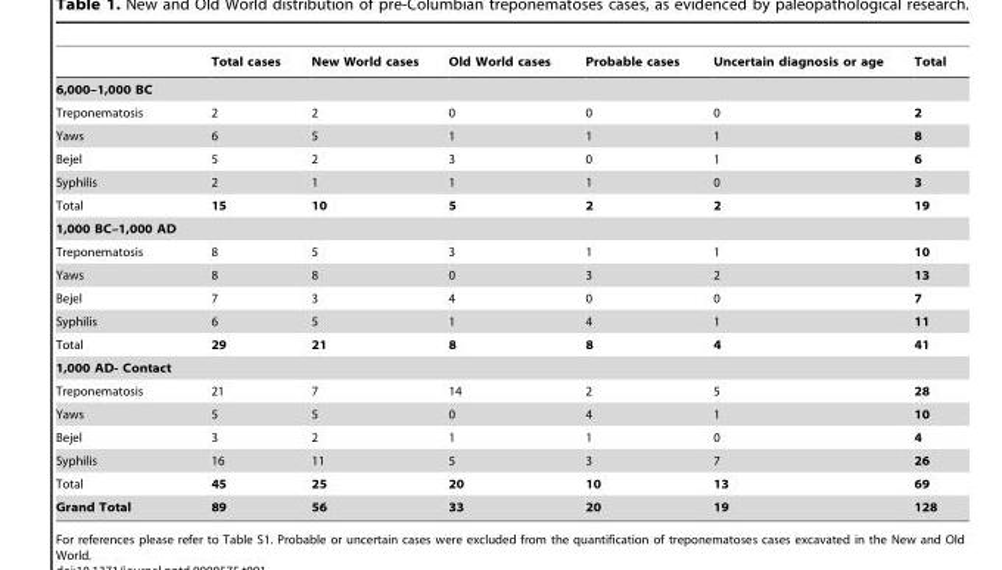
<table><thead><tr><td></td><td>Total cases</td><td>New World cases</td><td>Old World cases</td><td>Probable cases</td><td>Uncertain diagnosis or age</td><td>Total</td></tr></thead><tbody><tr><td colspan="7">6,000–1,000 BC</td></tr><tr><td>Treponematosis</td><td>2</td><td>2</td><td>0</td><td>0</td><td>0</td><td>2</td></tr><tr><td>Yaws</td><td>6</td><td>5</td><td>1</td><td>1</td><td>1</td><td>8</td></tr><tr><td>Bejel</td><td>5</td><td>2</td><td>3</td><td>0</td><td>1</td><td>6</td></tr><tr><td>Syphilis</td><td>2</td><td>1</td><td>1</td><td>1</td><td>0</td><td>3</td></tr><tr><td>Total</td><td>15</td><td>10</td><td>5</td><td>2</td><td>2</td><td>19</td></tr><tr><td colspan="7">1,000 BC–1,000 AD</td></tr><tr><td>Treponematosis</td><td>8</td><td>5</td><td>3</td><td>1</td><td>1</td><td>10</td></tr><tr><td>Yaws</td><td>8</td><td>8</td><td>0</td><td>3</td><td>2</td><td>13</td></tr><tr><td>Bejel</td><td>7</td><td>3</td><td>4</td><td>0</td><td>0</td><td>7</td></tr><tr><td>Syphilis</td><td>6</td><td>5</td><td>1</td><td>4</td><td>1</td><td>11</td></tr><tr><td>Total</td><td>29</td><td>21</td><td>8</td><td>8</td><td>4</td><td>41</td></tr><tr><td colspan="7">1,000 AD- Contact</td></tr><tr><td>Treponematosis</td><td>21</td><td>7</td><td>14</td><td>2</td><td>5</td><td>28</td></tr><tr><td>Yaws</td><td>5</td><td>5</td><td>0</td><td>4</td><td>1</td><td>10</td></tr><tr><td>Bejel</td><td>3</td><td>2</td><td>1</td><td>1</td><td>0</td><td>4</td></tr><tr><td>Syphilis</td><td>16</td><td>11</td><td>5</td><td>3</td><td>7</td><td>26</td></tr><tr><td>Total</td><td>45</td><td>25</td><td>20</td><td>10</td><td>13</td><td>69</td></tr><tr><td>Grand Total</td><td>89</td><td>56</td><td>33</td><td>20</td><td>19</td><td>128</td></tr></tbody></table>